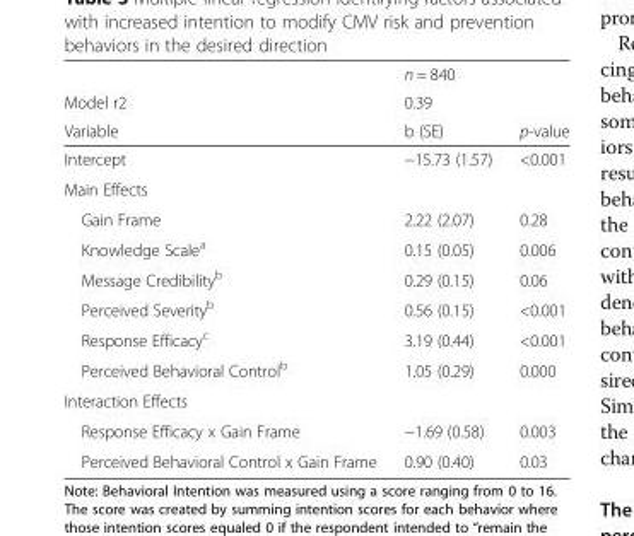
<table><thead><tr><td rowspan="3">Model r2 Variable</td><td rowspan="3">n = 840 0.39 b (SE)</td><td rowspan="3">p-value</td></tr><tr></tr><tr></tr></thead><tbody><tr><td>Intercept</td><td>−15.73 (1.57)</td><td>&lt;0.001</td></tr><tr><td colspan="3">Main Effects</td></tr><tr><td>Gain Frame</td><td>2.22 (2.07)</td><td>0.28</td></tr><tr><td>Knowledge Scale<sup>a</sup></td><td>0.15 (0.05)</td><td>0.006</td></tr><tr><td>Message Credibility<sup>b</sup></td><td>0.29 (0.15)</td><td>0.06</td></tr><tr><td>Perceived Severity<sup>b</sup></td><td>0.56 (0.15)</td><td>&lt;0.001</td></tr><tr><td>Response Efficacy<sup>c</sup></td><td>3.19 (0.44)</td><td>&lt;0.001</td></tr><tr><td>Perceived Behavioral Control<sup>b</sup></td><td>1.05 (0.29)</td><td>0.000</td></tr><tr><td colspan="3">Interaction Effects</td></tr><tr><td>Response Efficacy x Gain Frame</td><td>−1.69 (0.58)</td><td>0.003</td></tr><tr><td>Perceived Behavioral Control x Gain Frame</td><td>0.90 (0.40)</td><td>0.03</td></tr></tbody></table>